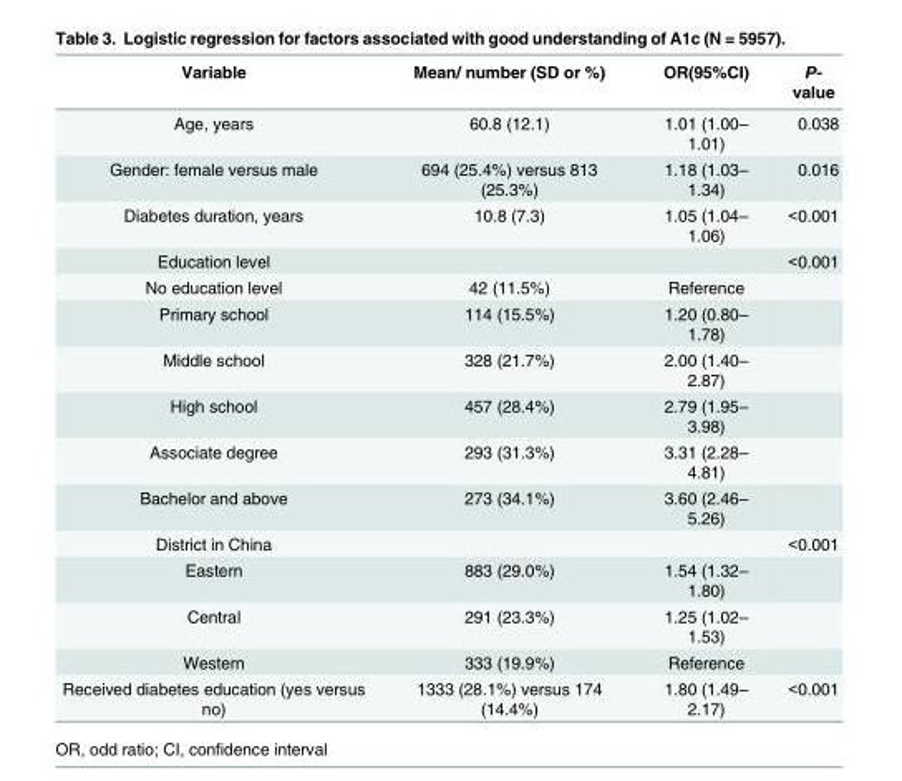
<table><thead><tr><td>Variable</td><td>Mean/ number (SD or %)</td><td>OR(95%CI)</td><td>P- value</td></tr></thead><tbody><tr><td>Age, years</td><td>60.8 (12.1)</td><td>1.01 (1.00– 1.01)</td><td>0.038</td></tr><tr><td>Gender: female versus male</td><td>694 (25.4%) versus 813 (25.3%)</td><td>1.18 (1.03– 1.34)</td><td>0.016</td></tr><tr><td>Diabetes duration, years</td><td>10.8 (7.3)</td><td>1.05 (1.04– 1.06)</td><td>&lt;0.001</td></tr><tr><td>Education level</td><td></td><td></td><td>&lt;0.001</td></tr><tr><td>No education level</td><td>42 (11.5%)</td><td>Reference</td><td></td></tr><tr><td>Primary school</td><td>114 (15.5%)</td><td>1.20 (0.80– 1.78)</td><td></td></tr><tr><td>Middle school</td><td>328 (21.7%)</td><td>2.00 (1.40– 2.87)</td><td></td></tr><tr><td>High school</td><td>457 (28.4%)</td><td>2.79 (1.95– 3.98)</td><td></td></tr><tr><td>Associate degree</td><td>293 (31.3%)</td><td>3.31 (2.28– 4.81)</td><td></td></tr><tr><td>Bachelor and above</td><td>273 (34.1%)</td><td>3.60 (2.46– 5.26)</td><td></td></tr><tr><td>District in China</td><td></td><td></td><td>&lt;0.001</td></tr><tr><td>Eastern</td><td>883 (29.0%)</td><td>1.54 (1.32– 1.80)</td><td></td></tr><tr><td>Central</td><td>291 (23.3%)</td><td>1.25 (1.02– 1.53)</td><td></td></tr><tr><td>Western</td><td>333 (19.9%)</td><td>Reference</td><td></td></tr><tr><td>Received diabetes education (yes versus no)</td><td>1333 (28.1%) versus 174 (14.4%)</td><td>1.80 (1.49– 2.17)</td><td>&lt;0.001</td></tr></tbody></table>